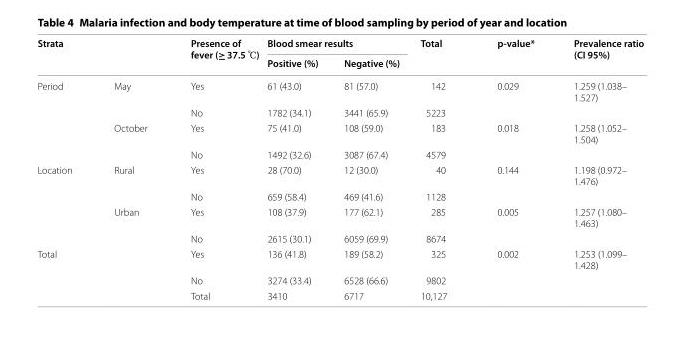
<table><thead><tr><td rowspan="2">Strata</td><td rowspan="2"></td><td rowspan="2">Presence of fever (≥ 37.5 ℃)</td><td colspan="2">Blood smear results</td><td rowspan="2">Total</td><td rowspan="2">p-value*</td><td rowspan="2">Prevalence ratio (CI 95%)</td></tr><tr><td>Positive (%)</td><td>Negative (%)</td></tr></thead><tbody><tr><td rowspan="4">Period</td><td>May</td><td>Yes</td><td>61 (43.0)</td><td>81 (57.0)</td><td>142</td><td>0.029</td><td>1.259 (1.038– 1.527)</td></tr><tr><td></td><td>No</td><td>1782 (34.1)</td><td>3441 (65.9)</td><td>5223</td><td></td><td></td></tr><tr><td>October</td><td>Yes</td><td>75 (41.0)</td><td>108 (59.0)</td><td>183</td><td>0.018</td><td>1.258 (1.052– 1.504)</td></tr><tr><td></td><td>No</td><td>1492 (32.6)</td><td>3087 (67.4)</td><td>4579</td><td></td><td></td></tr><tr><td rowspan="4">Location</td><td>Rural</td><td>Yes</td><td>28 (70.0)</td><td>12 (30.0)</td><td>40</td><td>0.144</td><td>1.198 (0.972– 1.476)</td></tr><tr><td></td><td>No</td><td>659 (58.4)</td><td>469 (41.6)</td><td>1128</td><td></td><td></td></tr><tr><td>Urban</td><td>Yes</td><td>108 (37.9)</td><td>177 (62.1)</td><td>285</td><td>0.005</td><td>1.257 (1.080– 1.463)</td></tr><tr><td></td><td>No</td><td>2615 (30.1)</td><td>6059 (69.9)</td><td>8674</td><td></td><td></td></tr><tr><td rowspan="3">Total</td><td></td><td>Yes</td><td>136 (41.8)</td><td>189 (58.2)</td><td>325</td><td>0.002</td><td>1.253 (1.099– 1.428)</td></tr><tr><td></td><td>No</td><td>3274 (33.4)</td><td>6528 (66.6)</td><td>9802</td><td></td><td></td></tr><tr><td></td><td>Total</td><td>3410</td><td>6717</td><td>10,127</td><td></td><td></td></tr></tbody></table>